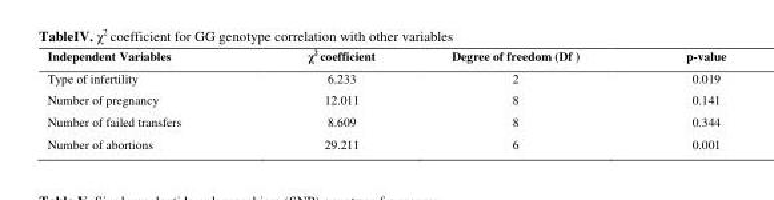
<table><thead><tr><td>Independent Variables</td><td>χ<sup>2</sup> coefficient</td><td>Degree of freedom (Df )</td><td>p-value</td></tr></thead><tbody><tr><td>Type of infertility</td><td>6.233</td><td>2</td><td>0.019</td></tr><tr><td>Number of pregnancy</td><td>12.011</td><td>8</td><td>0.141</td></tr><tr><td>Number of failed transfers</td><td>8.609</td><td>8</td><td>0.344</td></tr><tr><td>Number of abortions</td><td>29.211</td><td>6</td><td>0.001</td></tr></tbody></table>